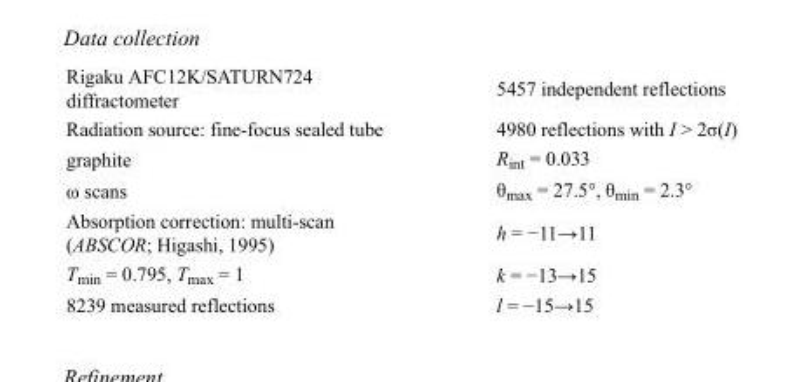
<table><tbody><tr><td>Rigaku AFC12K/SATURN724 diffractometer</td><td>5457 independent reflections</td></tr><tr><td>Radiation source: fine-focus sealed tube</td><td>4980 reflections with I &gt; 2σ(I)</td></tr><tr><td>graphite</td><td>R<sub>int</sub> = 0.033</td></tr><tr><td>ω scans</td><td>θ<sub>max</sub> = 27.5°, θ<sub>min</sub> = 2.3°</td></tr><tr><td>Absorption correction: multi-scan (ABSCOR; Higashi, 1995)</td><td>h = −11→11</td></tr><tr><td>T<sub>min</sub> = 0.795, T<sub>max</sub> = 1</td><td>k = −13→15</td></tr><tr><td>8239 measured reflections</td><td>l = −15→15</td></tr></tbody></table>